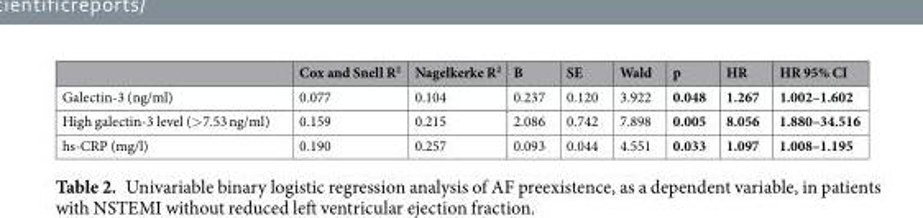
<table><thead><tr><td></td><td>Cox and Snell R<sup>2</sup></td><td>Nagelkerke R<sup>2</sup></td><td>B</td><td>SE</td><td>Wald</td><td>p</td><td>HR</td><td>HR 95% CI</td></tr></thead><tbody><tr><td>Galectin-3 (ng/ml)</td><td>0.077</td><td>0.104</td><td>0.237</td><td>0.120</td><td>3.922</td><td>0.048</td><td>1.267</td><td>1.002–1.602</td></tr><tr><td>High galectin-3 level (&gt;7.53 ng/ml)</td><td>0.159</td><td>0.215</td><td>2.086</td><td>0.742</td><td>7.898</td><td>0.005</td><td>8.056</td><td>1.880–34.516</td></tr><tr><td>hs-CRP (mg/l)</td><td>0.190</td><td>0.257</td><td>0.093</td><td>0.044</td><td>4.551</td><td>0.033</td><td>1.097</td><td>1.008–1.195</td></tr></tbody></table>